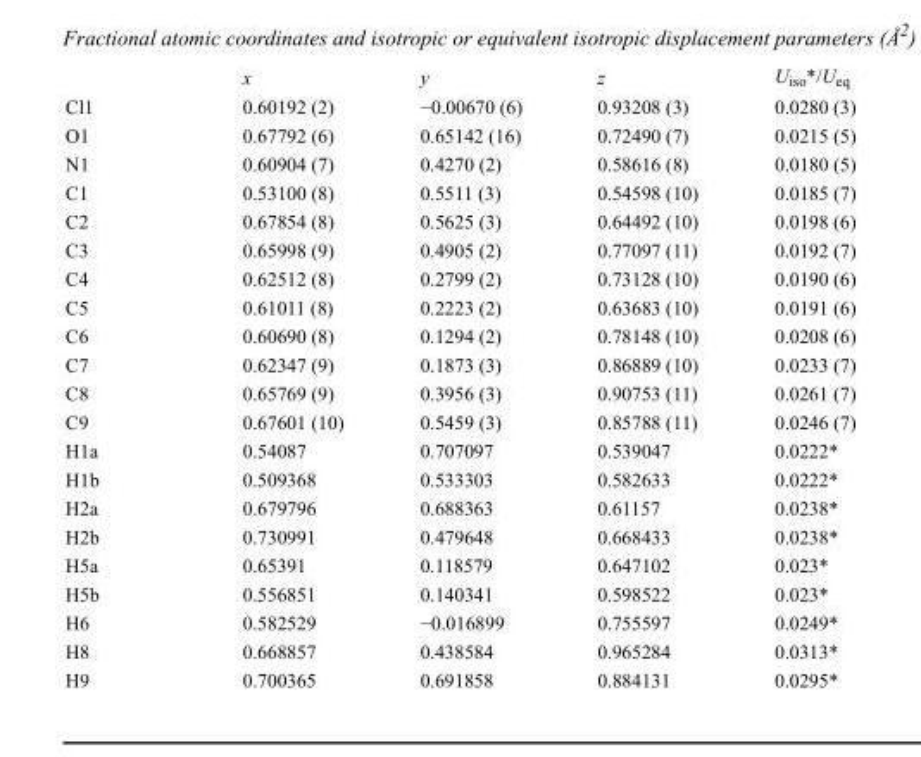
<table><thead><tr><td></td><td>x</td><td>y</td><td>z</td><td>U<sub>iso</sub>*/U<sub>eq</sub></td></tr></thead><tbody><tr><td>Cl1</td><td>0.60192 (2)</td><td>−0.00670 (6)</td><td>0.93208 (3)</td><td>0.0280 (3)</td></tr><tr><td>O1</td><td>0.67792 (6)</td><td>0.65142 (16)</td><td>0.72490 (7)</td><td>0.0215 (5)</td></tr><tr><td>N1</td><td>0.60904 (7)</td><td>0.4270 (2)</td><td>0.58616 (8)</td><td>0.0180 (5)</td></tr><tr><td>C1</td><td>0.53100 (8)</td><td>0.5511 (3)</td><td>0.54598 (10)</td><td>0.0185 (7)</td></tr><tr><td>C2</td><td>0.67854 (8)</td><td>0.5625 (3)</td><td>0.64492 (10)</td><td>0.0198 (6)</td></tr><tr><td>C3</td><td>0.65998 (9)</td><td>0.4905 (2)</td><td>0.77097 (11)</td><td>0.0192 (7)</td></tr><tr><td>C4</td><td>0.62512 (8)</td><td>0.2799 (2)</td><td>0.73128 (10)</td><td>0.0190 (6)</td></tr><tr><td>C5</td><td>0.61011 (8)</td><td>0.2223 (2)</td><td>0.63683 (10)</td><td>0.0191 (6)</td></tr><tr><td>C6</td><td>0.60690 (8)</td><td>0.1294 (2)</td><td>0.78148 (10)</td><td>0.0208 (6)</td></tr><tr><td>C7</td><td>0.62347 (9)</td><td>0.1873 (3)</td><td>0.86889 (10)</td><td>0.0233 (7)</td></tr><tr><td>C8</td><td>0.65769 (9)</td><td>0.3956 (3)</td><td>0.90753 (11)</td><td>0.0261 (7)</td></tr><tr><td>C9</td><td>0.67601 (10)</td><td>0.5459 (3)</td><td>0.85788 (11)</td><td>0.0246 (7)</td></tr><tr><td>H1a</td><td>0.54087</td><td>0.707097</td><td>0.539047</td><td>0.0222*</td></tr><tr><td>H1b</td><td>0.509368</td><td>0.533303</td><td>0.582633</td><td>0.0222*</td></tr><tr><td>H2a</td><td>0.679796</td><td>0.688363</td><td>0.61157</td><td>0.0238*</td></tr><tr><td>H2b</td><td>0.730991</td><td>0.479648</td><td>0.668433</td><td>0.0238*</td></tr><tr><td>H5a</td><td>0.65391</td><td>0.118579</td><td>0.647102</td><td>0.023*</td></tr><tr><td>H5b</td><td>0.556851</td><td>0.140341</td><td>0.598522</td><td>0.023*</td></tr><tr><td>H6</td><td>0.582529</td><td>−0.016899</td><td>0.755597</td><td>0.0249*</td></tr><tr><td>H8</td><td>0.668857</td><td>0.438584</td><td>0.965284</td><td>0.0313*</td></tr><tr><td>H9</td><td>0.700365</td><td>0.691858</td><td>0.884131</td><td>0.0295*</td></tr></tbody></table>